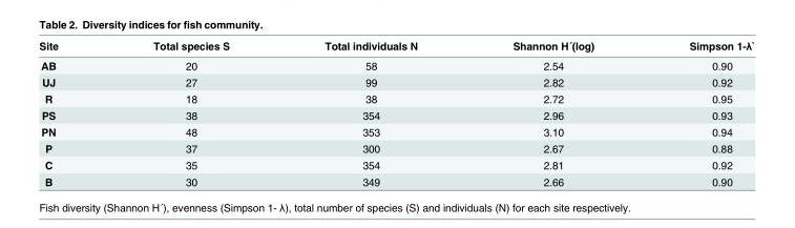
<table><thead><tr><td>Site</td><td>Total species S</td><td>Total individuals N</td><td>Shannon H´(log)</td><td>Simpson 1-λ`</td></tr></thead><tbody><tr><td>AB</td><td>20</td><td>58</td><td>2.54</td><td>0.90</td></tr><tr><td>UJ</td><td>27</td><td>99</td><td>2.82</td><td>0.92</td></tr><tr><td>R</td><td>18</td><td>38</td><td>2.72</td><td>0.95</td></tr><tr><td>PS</td><td>38</td><td>354</td><td>2.96</td><td>0.93</td></tr><tr><td>PN</td><td>48</td><td>353</td><td>3.10</td><td>0.94</td></tr><tr><td>P</td><td>37</td><td>300</td><td>2.67</td><td>0.88</td></tr><tr><td>C</td><td>35</td><td>354</td><td>2.81</td><td>0.92</td></tr><tr><td>B</td><td>30</td><td>349</td><td>2.66</td><td>0.90</td></tr></tbody></table>